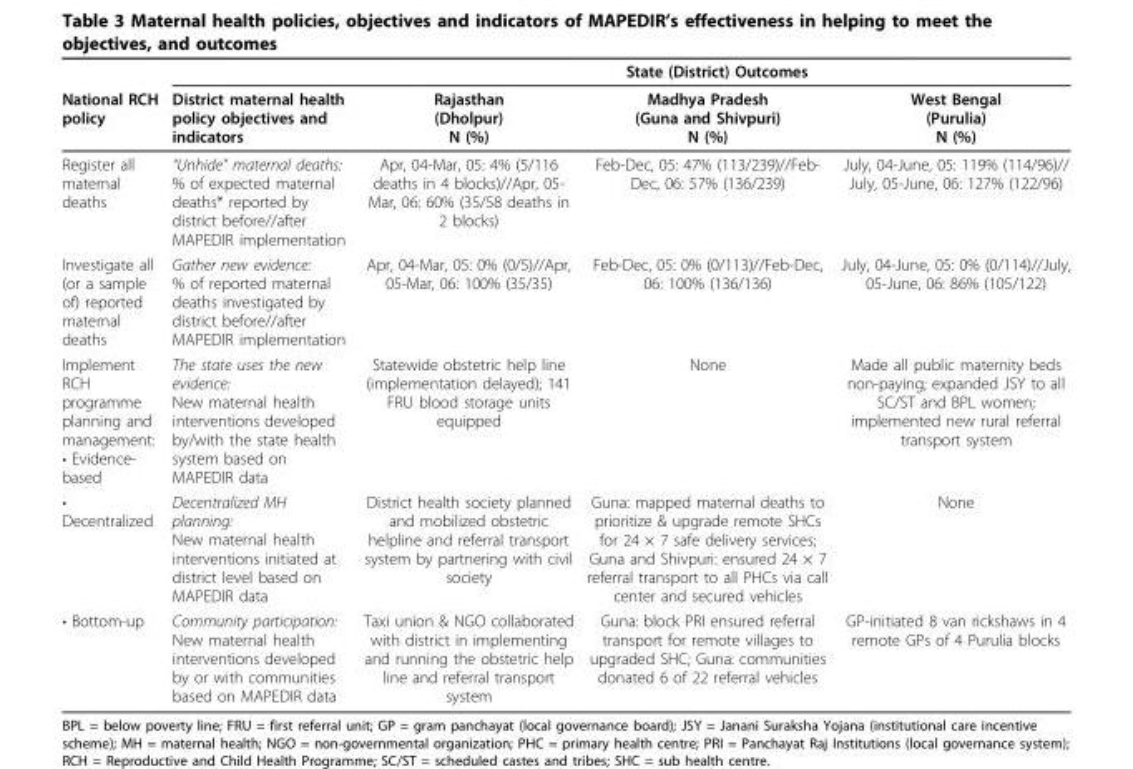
<table><thead><tr><td rowspan="2">National RCH policy</td><td rowspan="2">District maternal health policy objectives and indicators</td><td colspan="3">State (District) Outcomes</td></tr><tr><td>Rajasthan (Dholpur) N (%)</td><td>Madhya Pradesh (Guna and Shivpuri) N (%)</td><td>West Bengal (Purulia) N (%)</td></tr></thead><tbody><tr><td>Register all maternal deaths</td><td>“Unhide” maternal deaths: % of expected maternal deaths* reported by district before//after MAPEDIR implementation</td><td>Apr, 04-Mar, 05: 4% (5/116 deaths in 4 blocks)//Apr, 05- Mar, 06: 60% (35/58 deaths in 2 blocks)</td><td>Feb-Dec, 05: 47% (113/239)//Feb- Dec, 06: 57% (136/239)</td><td>July, 04-June, 05: 119% (114/96)// July, 05-June, 06: 127% (122/96)</td></tr><tr><td>Investigate all (or a sample of) reported maternal deaths</td><td>Gather new evidence: % of reported maternal deaths investigated by district before//after MAPEDIR implementation</td><td>Apr, 04-Mar, 05: 0% (0/5)//Apr, 05-Mar, 06: 100% (35/35)</td><td>Feb-Dec, 05: 0% (0/113)//Feb-Dec, 06: 100% (136/136)</td><td>July, 04-June, 05: 0% (0/114)//July, 05-June, 06: 86% (105/122)</td></tr><tr><td>Implement RCH programme planning and management: • Evidence- based</td><td>The state uses the new evidence: New maternal health interventions developed by/with the state health system based on MAPEDIR data</td><td>Statewide obstetric help line (implementation delayed); 141 FRU blood storage units equipped</td><td>None</td><td>Made all public maternity beds non-paying; expanded JSY to all SC/ST and BPL women; implemented new rural referral transport system</td></tr><tr><td>• Decentralized</td><td>Decentralized MH planning: New maternal health interventions initiated at district level based on MAPEDIR data</td><td>District health society planned and mobilized obstetric helpline and referral transport system by partnering with civil society</td><td>Guna: mapped maternal deaths to prioritize &amp; upgrade remote SHCs for 24 × 7 safe delivery services; Guna and Shivpuri: ensured 24 × 7 referral transport to all PHCs via call center and secured vehicles</td><td>None</td></tr><tr><td>• Bottom-up</td><td>Community participation: New maternal health interventions developed by or with communities based on MAPEDIR data</td><td>Taxi union &amp; NGO collaborated with district in implementing and running the obstetric help line and referral transport system</td><td>Guna: block PRI ensured referral transport for remote villages to upgraded SHC; Guna: communities donated 6 of 22 referral vehicles</td><td>GP-initiated 8 van rickshaws in 4 remote GPs of 4 Purulia blocks</td></tr></tbody></table>